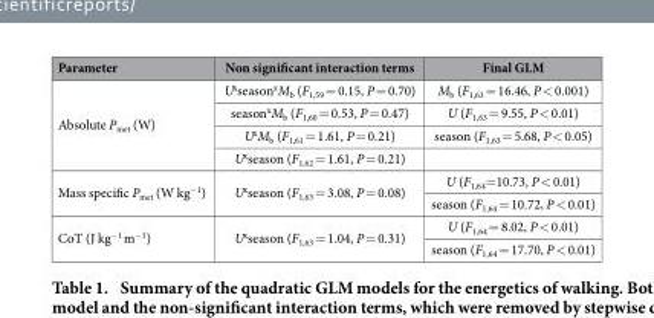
<table><thead><tr><td>Parameter</td><td>Non significant interaction terms</td><td>Final GLM</td></tr></thead><tbody><tr><td rowspan="4">Absolute P<sub>met</sub> (W)</td><td>U<sup>x</sup>season<sup>x</sup>M<sub>b</sub> (F<sub>1,59</sub> = 0.15, P = 0.70)</td><td>M<sub>b</sub> (F<sub>1,63</sub> = 16.46, P &lt; 0.001)</td></tr><tr><td>season<sup>x</sup>M<sub>b</sub> (F<sub>1,60</sub> = 0.53, P = 0.47)</td><td>U (F<sub>1,63</sub> = 9.55, P &lt; 0.01)</td></tr><tr><td>U<sup>x</sup>M<sub>b</sub> (F<sub>1,61</sub> = 1.61, P = 0.21)</td><td>season (F<sub>1,63</sub> = 5.68, P &lt; 0.05)</td></tr><tr><td>U<sup>x</sup>season (F<sub>1,62</sub> = 1.61, P = 0.21)</td><td></td></tr><tr><td rowspan="2">Mass specific P<sub>met</sub> (W kg<sup>−1</sup>)</td><td rowspan="2">U<sup>x</sup>season (F<sub>1,63</sub> = 3.08, P = 0.08)</td><td>U (F<sub>1,64</sub>= 10.73, P &lt; 0.01)</td></tr><tr><td>season (F<sub>1,64</sub> = 10.72, P &lt; 0.01)</td></tr><tr><td rowspan="2">CoT (J kg<sup>−1</sup> m<sup>−1</sup>)</td><td rowspan="2">U<sup>x</sup>season (F<sub>1,63</sub> = 1.04, P = 0.31)</td><td>U (F<sub>1,64</sub> = 8.02, P &lt; 0.01)</td></tr><tr><td>season (F<sub>1,64</sub> = 17.70, P &lt; 0.01)</td></tr></tbody></table>